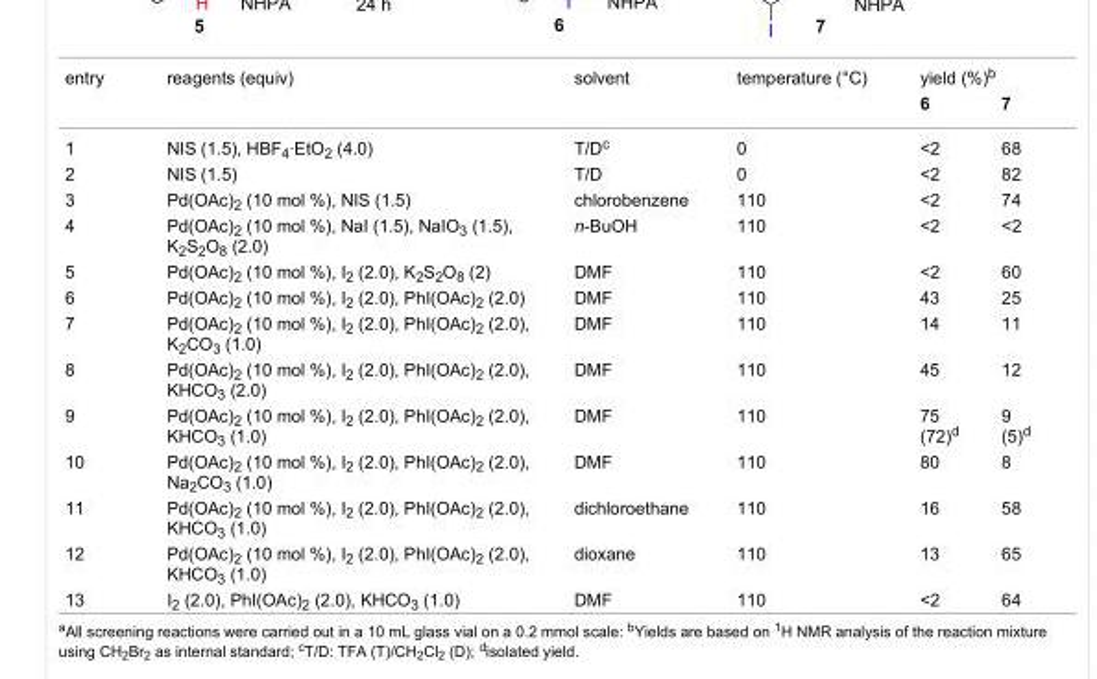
<table><tbody><tr><td rowspan="2">entry</td><td rowspan="2">reagents (equiv)</td><td rowspan="2">solvent</td><td rowspan="2">temperature (°C)</td><td colspan="2">yield (%)<sup>b</sup></td></tr><tr><td>6</td><td>7</td></tr><tr><td>1</td><td>NIS (1.5), HBF<sub>4</sub>·EtO<sub>2</sub> (4.0)</td><td>T/D<sup>c</sup></td><td>0</td><td>&lt;2</td><td>68</td></tr><tr><td>2</td><td>NIS (1.5)</td><td>T/D</td><td>0</td><td>&lt;2</td><td>82</td></tr><tr><td>3</td><td>Pd(OAc)<sub>2</sub> (10 mol %), NIS (1.5)</td><td>chlorobenzene</td><td>110</td><td>&lt;2</td><td>74</td></tr><tr><td>4</td><td>Pd(OAc)<sub>2</sub> (10 mol %), NaI (1.5), NaIO<sub>3</sub> (1.5), K<sub>2</sub>S<sub>2</sub>O<sub>8</sub> (2.0)</td><td>n-BuOH</td><td>110</td><td>&lt;2</td><td>&lt;2</td></tr><tr><td>5</td><td>Pd(OAc)<sub>2</sub> (10 mol %), I<sub>2</sub> (2.0), K<sub>2</sub>S<sub>2</sub>O<sub>8</sub> (2)</td><td>DMF</td><td>110</td><td>&lt;2</td><td>60</td></tr><tr><td>6</td><td>Pd(OAc)<sub>2</sub> (10 mol %), I<sub>2</sub> (2.0), PhI(OAc)<sub>2</sub> (2.0)</td><td>DMF</td><td>110</td><td>43</td><td>25</td></tr><tr><td>7</td><td>Pd(OAc)<sub>2</sub> (10 mol %), I<sub>2</sub> (2.0), PhI(OAc)<sub>2</sub> (2.0), K<sub>2</sub>CO<sub>3</sub> (1.0)</td><td>DMF</td><td>110</td><td>14</td><td>11</td></tr><tr><td>8</td><td>Pd(OAc)<sub>2</sub> (10 mol %), I<sub>2</sub> (2.0), PhI(OAc)<sub>2</sub> (2.0), KHCO<sub>3</sub> (2.0)</td><td>DMF</td><td>110</td><td>45</td><td>12</td></tr><tr><td>9</td><td>Pd(OAc)<sub>2</sub> (10 mol %), I<sub>2</sub> (2.0), PhI(OAc)<sub>2</sub> (2.0), KHCO<sub>3</sub> (1.0)</td><td>DMF</td><td>110</td><td>75 (72)<sup>d</sup></td><td>9 (5)<sup>d</sup></td></tr><tr><td>10</td><td>Pd(OAc)<sub>2</sub> (10 mol %), I<sub>2</sub> (2.0), PhI(OAc)<sub>2</sub> (2.0), Na<sub>2</sub>CO<sub>3</sub> (1.0)</td><td>DMF</td><td>110</td><td>80</td><td>8</td></tr><tr><td>11</td><td>Pd(OAc)<sub>2</sub> (10 mol %), I<sub>2</sub> (2.0), PhI(OAc)<sub>2</sub> (2.0), KHCO<sub>3</sub> (1.0)</td><td>dichloroethane</td><td>110</td><td>16</td><td>58</td></tr><tr><td>12</td><td>Pd(OAc)<sub>2</sub> (10 mol %), I<sub>2</sub> (2.0), PhI(OAc)<sub>2</sub> (2.0), KHCO<sub>3</sub> (1.0)</td><td>dioxane</td><td>110</td><td>13</td><td>65</td></tr><tr><td>13</td><td>I<sub>2</sub> (2.0), PhI(OAc)<sub>2</sub> (2.0), KHCO<sub>3</sub> (1.0)</td><td>DMF</td><td>110</td><td>&lt;2</td><td>64</td></tr></tbody></table>